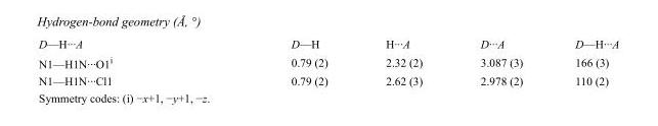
<table><tbody><tr><td>D—H···A</td><td>D—H</td><td>H···A</td><td>D···A</td><td>D—H···A</td></tr><tr><td>N1—H1N···O1<sup>i</sup></td><td>0.79 (2)</td><td>2.32 (2)</td><td>3.087 (3)</td><td>166 (3)</td></tr><tr><td>N1—H1N···Cl1</td><td>0.79 (2)</td><td>2.62 (3)</td><td>2.978 (2)</td><td>110 (2)</td></tr></tbody></table>